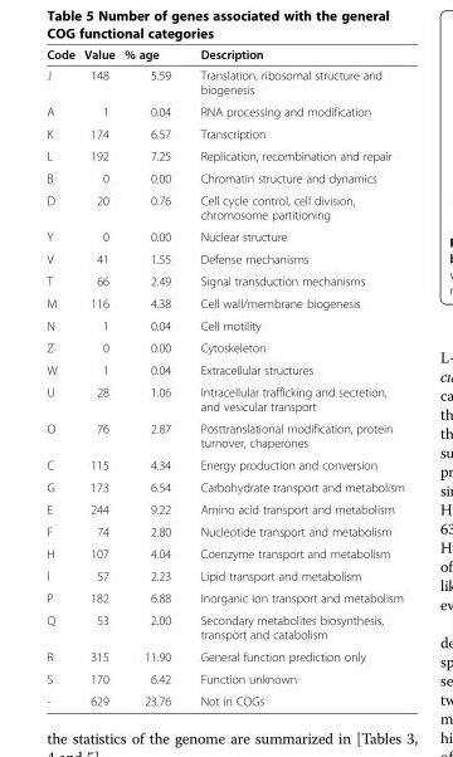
<table><thead><tr><td>Code</td><td>Value</td><td>% age</td><td>Description</td></tr></thead><tbody><tr><td>J</td><td>148</td><td>5.59</td><td>Translation, ribosomal structure and biogenesis</td></tr><tr><td>A</td><td>1</td><td>0.04</td><td>RNA processing and modification</td></tr><tr><td>K</td><td>174</td><td>6.57</td><td>Transcription</td></tr><tr><td>L</td><td>192</td><td>7.25</td><td>Replication, recombination and repair</td></tr><tr><td>B</td><td>0</td><td>0.00</td><td>Chromatin structure and dynamics</td></tr><tr><td>D</td><td>20</td><td>0.76</td><td>Cell cycle control, cell division, chromosome partitioning</td></tr><tr><td>Y</td><td>0</td><td>0.00</td><td>Nuclear structure</td></tr><tr><td>V</td><td>41</td><td>1.55</td><td>Defense mechanisms</td></tr><tr><td>T</td><td>66</td><td>2.49</td><td>Signal transduction mechanisms</td></tr><tr><td>M</td><td>116</td><td>4.38</td><td>Cell wall/membrane biogenesis</td></tr><tr><td>N</td><td>1</td><td>0.04</td><td>Cell motility</td></tr><tr><td>Z</td><td>0</td><td>0.00</td><td>Cytoskeleton</td></tr><tr><td>W</td><td>1</td><td>0.04</td><td>Extracellular structures</td></tr><tr><td>U</td><td>28</td><td>1.06</td><td>Intracellular trafficking and secretion, and vesicular transport</td></tr><tr><td>O</td><td>76</td><td>2.87</td><td>Posttranslational modification, protein turnover, chaperones</td></tr><tr><td>C</td><td>115</td><td>4.34</td><td>Energy production and conversion</td></tr><tr><td>G</td><td>173</td><td>6.54</td><td>Carbohydrate transport and metabolism</td></tr><tr><td>E</td><td>244</td><td>9.22</td><td>Amino acid transport and metabolism</td></tr><tr><td>F</td><td>74</td><td>2.80</td><td>Nucleotide transport and metabolism</td></tr><tr><td>H</td><td>107</td><td>4.04</td><td>Coenzyme transport and metabolism</td></tr><tr><td>I</td><td>57</td><td>2.23</td><td>Lipid transport and metabolism</td></tr><tr><td>P</td><td>182</td><td>6.88</td><td>Inorganic ion transport and metabolism</td></tr><tr><td>Q</td><td>53</td><td>2.00</td><td>Secondary metabolites biosynthesis, transport and catabolism</td></tr><tr><td>R</td><td>315</td><td>11.90</td><td>General function prediction only</td></tr><tr><td>S</td><td>170</td><td>6.42</td><td>Function unknown</td></tr><tr><td>-</td><td>629</td><td>23.76</td><td>Not in COGs</td></tr></tbody></table>